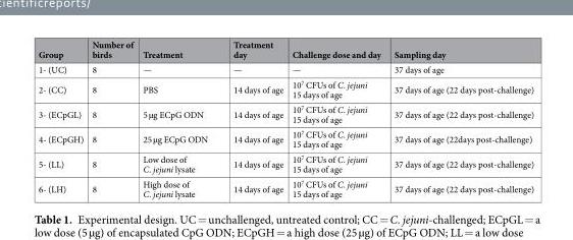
<table><thead><tr><td>Group</td><td>Number of birds</td><td>Treatment</td><td>Treatment day</td><td>Challenge dose and day</td><td>Sampling day</td></tr></thead><tbody><tr><td>1- (UC)</td><td>8</td><td>—</td><td>—</td><td>—</td><td>37 days of age</td></tr><tr><td>2- (CC)</td><td>8</td><td>PBS</td><td>14 days of age</td><td>10<sup>7</sup> CFUs of C. jejuni 15 days of age</td><td>37 days of age (22 days post-challenge)</td></tr><tr><td>3- (ECpGL)</td><td>8</td><td>5 µg ECpG ODN</td><td>14 days of age</td><td>10<sup>7</sup> CFUs of C. jejuni 15 days of age</td><td>37 days of age (22 days post-challenge)</td></tr><tr><td>4- (ECpGH)</td><td>8</td><td>25 µg ECpG ODN</td><td>14 days of age</td><td>10<sup>7</sup> CFUs of C. jejuni 15 days of age</td><td>37 days of age (22days post-challenge)</td></tr><tr><td>5- (LL)</td><td>8</td><td>Low dose of C. jejuni lysate</td><td>14 days of age</td><td>10<sup>7</sup> CFUs of C. jejuni 15 days of age</td><td>37 days of age (22 days post-challenge)</td></tr><tr><td>6- (LH)</td><td>8</td><td>High dose of C. jejuni lysate</td><td>14 days of age</td><td>10<sup>7</sup> CFUs of C. jejuni 15 days of age</td><td>37 days of age (22 days post-challenge)</td></tr></tbody></table>